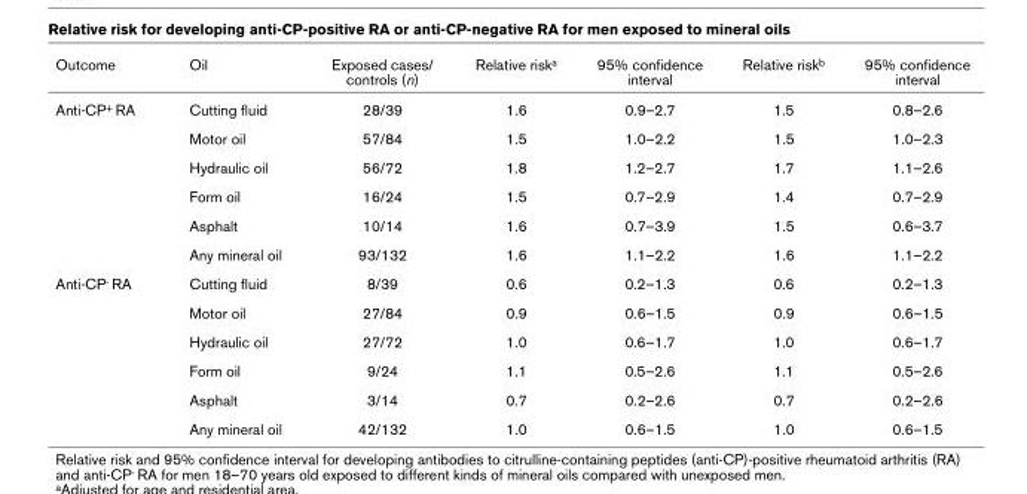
<table><thead><tr><td>Outcome</td><td>Oil</td><td>Exposed cases/ controls (n)</td><td>Relative riska</td><td>95% confidence interval</td><td>Relative riskb</td><td>95% confidence interval</td></tr></thead><tbody><tr><td rowspan="6">Anti-CP+ RA</td><td>Cutting fluid</td><td>28/39</td><td>1.6</td><td>0.9–2.7</td><td>1.5</td><td>0.8–2.6</td></tr><tr><td>Motor oil</td><td>57/84</td><td>1.5</td><td>1.0–2.2</td><td>1.5</td><td>1.0–2.3</td></tr><tr><td>Hydraulic oil</td><td>56/72</td><td>1.8</td><td>1.2–2.7</td><td>1.7</td><td>1.1–2.6</td></tr><tr><td>Form oil</td><td>16/24</td><td>1.5</td><td>0.7–2.9</td><td>1.4</td><td>0.7–2.9</td></tr><tr><td>Asphalt</td><td>10/14</td><td>1.6</td><td>0.7–3.9</td><td>1.5</td><td>0.6–3.7</td></tr><tr><td>Any mineral oil</td><td>93/132</td><td>1.6</td><td>1.1–2.2</td><td>1.6</td><td>1.1–2.2</td></tr><tr><td rowspan="6">Anti-CP- RA</td><td>Cutting fluid</td><td>8/39</td><td>0.6</td><td>0.2–1.3</td><td>0.6</td><td>0.2–1.3</td></tr><tr><td>Motor oil</td><td>27/84</td><td>0.9</td><td>0.6–1.5</td><td>0.9</td><td>0.6–1.5</td></tr><tr><td>Hydraulic oil</td><td>27/72</td><td>1.0</td><td>0.6–1.7</td><td>1.0</td><td>0.6–1.7</td></tr><tr><td>Form oil</td><td>9/24</td><td>1.1</td><td>0.5–2.6</td><td>1.1</td><td>0.5–2.6</td></tr><tr><td>Asphalt</td><td>3/14</td><td>0.7</td><td>0.2–2.6</td><td>0.7</td><td>0.2–2.6</td></tr><tr><td>Any mineral oil</td><td>42/132</td><td>1.0</td><td>0.6–1.5</td><td>1.0</td><td>0.6–1.5</td></tr></tbody></table>